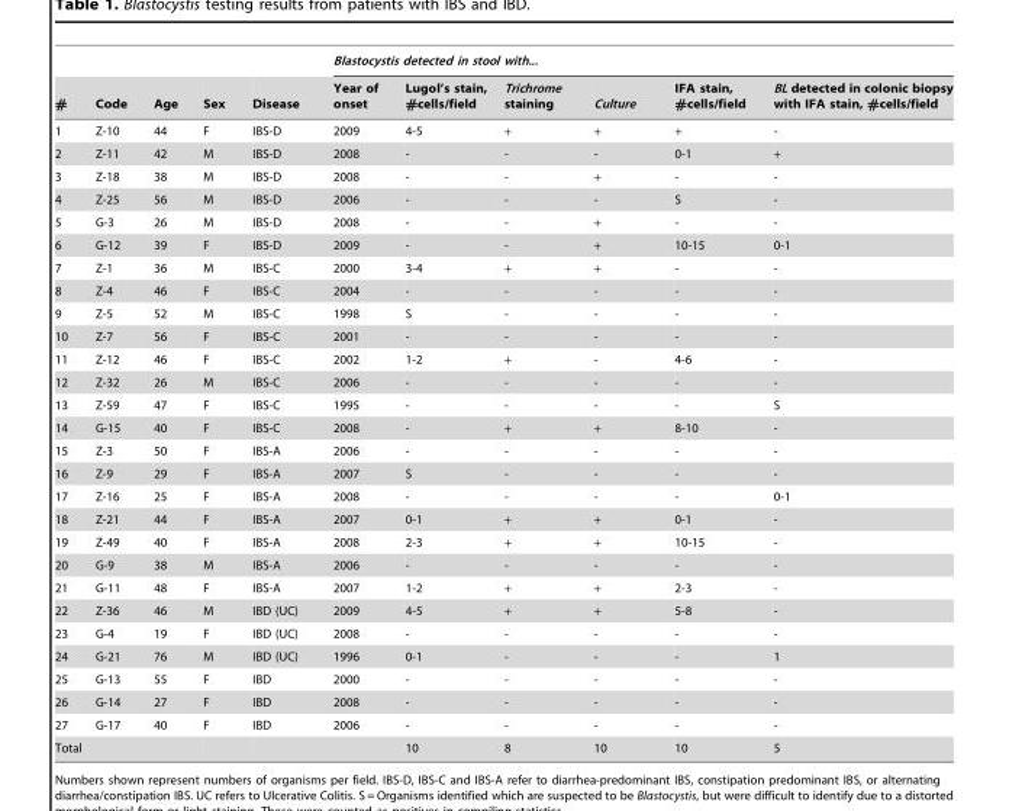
<table><thead><tr><td rowspan="2">#</td><td rowspan="2">Code</td><td rowspan="2">Age</td><td rowspan="2">Sex</td><td rowspan="2">Disease</td><td colspan="6">Blastocystis detected in stool with...</td></tr><tr><td>Year of onset</td><td>Lugol’s stain, #cells/field</td><td>Trichrome staining</td><td>Culture</td><td>IFA stain, #cells/field</td><td>BL detected in colonic biopsy with IFA stain, #cells/field</td></tr></thead><tbody><tr><td>1</td><td>Z-10</td><td>44</td><td>F</td><td>IBS-D</td><td>2009</td><td>4-5</td><td>+</td><td>+</td><td>+</td><td>-</td></tr><tr><td>2</td><td>Z-11</td><td>42</td><td>M</td><td>IBS-D</td><td>2008</td><td>-</td><td>-</td><td>-</td><td>0-1</td><td>+</td></tr><tr><td>3</td><td>Z-18</td><td>38</td><td>M</td><td>IBS-D</td><td>2008</td><td>-</td><td>-</td><td>+</td><td>-</td><td>-</td></tr><tr><td>4</td><td>Z-25</td><td>56</td><td>M</td><td>IBS-D</td><td>2006</td><td>-</td><td>-</td><td>-</td><td>S</td><td>-</td></tr><tr><td>5</td><td>G-3</td><td>26</td><td>M</td><td>IBS-D</td><td>2008</td><td>-</td><td>-</td><td>+</td><td>-</td><td>-</td></tr><tr><td>6</td><td>G-12</td><td>39</td><td>F</td><td>IBS-D</td><td>2009</td><td>-</td><td>-</td><td>+</td><td>10-15</td><td>0-1</td></tr><tr><td>7</td><td>Z-1</td><td>36</td><td>M</td><td>IBS-C</td><td>2000</td><td>3-4</td><td>+</td><td>+</td><td>-</td><td>-</td></tr><tr><td>8</td><td>Z-4</td><td>46</td><td>F</td><td>IBS-C</td><td>2004</td><td>-</td><td>-</td><td>-</td><td>-</td><td>-</td></tr><tr><td>9</td><td>Z-5</td><td>52</td><td>M</td><td>IBS-C</td><td>1998</td><td>S</td><td>-</td><td>-</td><td>-</td><td>-</td></tr><tr><td>10</td><td>Z-7</td><td>56</td><td>F</td><td>IBS-C</td><td>2001</td><td>-</td><td>-</td><td>-</td><td>-</td><td>-</td></tr><tr><td>11</td><td>Z-12</td><td>46</td><td>F</td><td>IBS-C</td><td>2002</td><td>1-2</td><td>+</td><td>-</td><td>4-6</td><td>-</td></tr><tr><td>12</td><td>Z-32</td><td>26</td><td>M</td><td>IBS-C</td><td>2006</td><td>-</td><td>-</td><td>-</td><td>-</td><td>-</td></tr><tr><td>13</td><td>Z-59</td><td>47</td><td>F</td><td>IBS-C</td><td>1995</td><td>-</td><td>-</td><td>-</td><td>-</td><td>S</td></tr><tr><td>14</td><td>G-15</td><td>40</td><td>F</td><td>IBS-C</td><td>2008</td><td>-</td><td>+</td><td>+</td><td>8-10</td><td>-</td></tr><tr><td>15</td><td>Z-3</td><td>50</td><td>F</td><td>IBS-A</td><td>2006</td><td>-</td><td>-</td><td>-</td><td>-</td><td>-</td></tr><tr><td>16</td><td>Z-9</td><td>29</td><td>F</td><td>IBS-A</td><td>2007</td><td>S</td><td>-</td><td>-</td><td>-</td><td>-</td></tr><tr><td>17</td><td>Z-16</td><td>25</td><td>F</td><td>IBS-A</td><td>2008</td><td>-</td><td>-</td><td>-</td><td>-</td><td>0-1</td></tr><tr><td>18</td><td>Z-21</td><td>44</td><td>F</td><td>IBS-A</td><td>2007</td><td>0-1</td><td>+</td><td>+</td><td>0-1</td><td>-</td></tr><tr><td>19</td><td>Z-49</td><td>40</td><td>F</td><td>IBS-A</td><td>2008</td><td>2-3</td><td>+</td><td>+</td><td>10-15</td><td>-</td></tr><tr><td>20</td><td>G-9</td><td>38</td><td>M</td><td>IBS-A</td><td>2006</td><td>-</td><td>-</td><td>-</td><td>-</td><td>-</td></tr><tr><td>21</td><td>G-11</td><td>48</td><td>F</td><td>IBS-A</td><td>2007</td><td>1-2</td><td>+</td><td>+</td><td>2-3</td><td>-</td></tr><tr><td>22</td><td>Z-36</td><td>46</td><td>M</td><td>IBD (UC)</td><td>2009</td><td>4-5</td><td>+</td><td>+</td><td>5-8</td><td>-</td></tr><tr><td>23</td><td>G-4</td><td>19</td><td>F</td><td>IBD (UC)</td><td>2008</td><td>-</td><td>-</td><td>-</td><td>-</td><td>-</td></tr><tr><td>24</td><td>G-21</td><td>76</td><td>M</td><td>IBD (UC)</td><td>1996</td><td>0-1</td><td>-</td><td>-</td><td>-</td><td>1</td></tr><tr><td>25</td><td>G-13</td><td>55</td><td>F</td><td>IBD</td><td>2000</td><td>-</td><td>-</td><td>-</td><td>-</td><td>-</td></tr><tr><td>26</td><td>G-14</td><td>27</td><td>F</td><td>IBD</td><td>2008</td><td>-</td><td>-</td><td>-</td><td>-</td><td>-</td></tr><tr><td>27</td><td>G-17</td><td>40</td><td>F</td><td>IBD</td><td>2006</td><td>-</td><td>-</td><td>-</td><td>-</td><td>-</td></tr><tr><td>Total</td><td></td><td></td><td></td><td></td><td></td><td>10</td><td>8</td><td>10</td><td>10</td><td>5</td></tr></tbody></table>